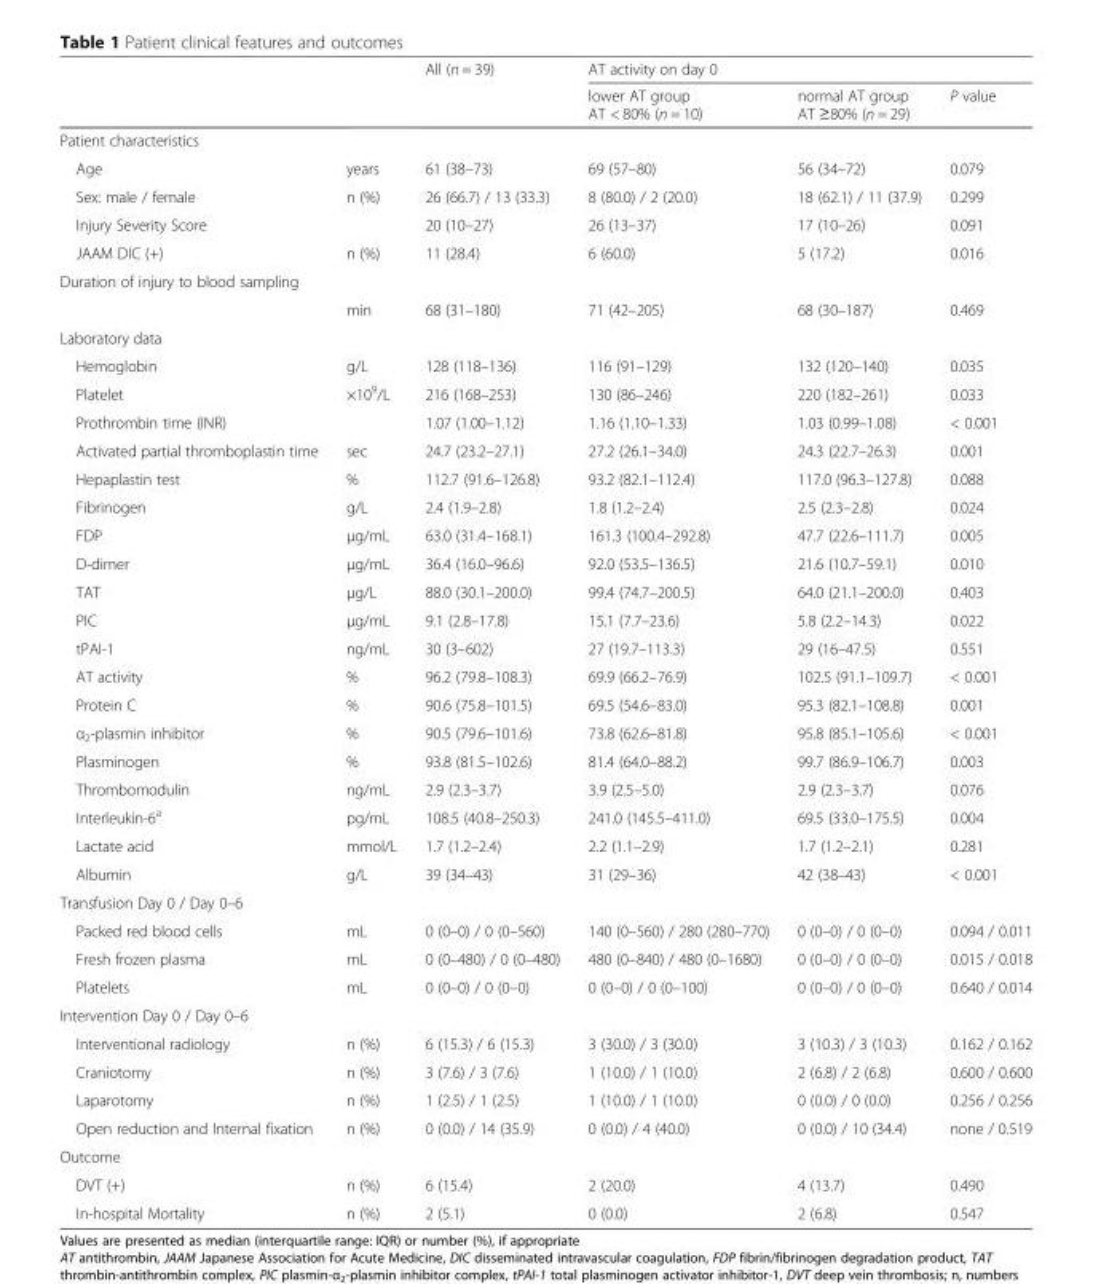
<table><thead><tr><td rowspan="2"></td><td rowspan="2"></td><td rowspan="2">All (n = 39)</td><td colspan="3">AT activity on day 0</td></tr><tr><td>lower AT group AT &lt; 80% (n = 10)</td><td>normal AT group AT ≥80% (n = 29)</td><td>P value</td></tr></thead><tbody><tr><td colspan="6">Patient characteristics</td></tr><tr><td>Age</td><td>years</td><td>61 (38–73)</td><td>69 (57–80)</td><td>56 (34–72)</td><td>0.079</td></tr><tr><td>Sex: male / female</td><td>n (%)</td><td>26 (66.7) / 13 (33.3)</td><td>8 (80.0) / 2 (20.0)</td><td>18 (62.1) / 11 (37.9)</td><td>0.299</td></tr><tr><td colspan="2">Injury Severity Score</td><td>20 (10–27)</td><td>26 (13–37)</td><td>17 (10–26)</td><td>0.091</td></tr><tr><td>JAAM DIC (+)</td><td>n (%)</td><td>11 (28.4)</td><td>6 (60.0)</td><td>5 (17.2)</td><td>0.016</td></tr><tr><td colspan="6">Duration of injury to blood sampling</td></tr><tr><td></td><td>min</td><td>68 (31–180)</td><td>71 (42–205)</td><td>68 (30–187)</td><td>0.469</td></tr><tr><td colspan="6">Laboratory data</td></tr><tr><td>Hemoglobin</td><td>g/L</td><td>128 (118–136)</td><td>116 (91–129)</td><td>132 (120–140)</td><td>0.035</td></tr><tr><td>Platelet</td><td>×10<sup>9</sup>/L</td><td>216 (168–253)</td><td>130 (86–246)</td><td>220 (182–261)</td><td>0.033</td></tr><tr><td>Prothrombin time (INR)</td><td></td><td>1.07 (1.00–1.12)</td><td>1.16 (1.10–1.33)</td><td>1.03 (0.99–1.08)</td><td>&lt; 0.001</td></tr><tr><td>Activated partial thromboplastin time</td><td>sec</td><td>24.7 (23.2–27.1)</td><td>27.2 (26.1–34.0)</td><td>24.3 (22.7–26.3)</td><td>0.001</td></tr><tr><td>Hepaplastin test</td><td>%</td><td>112.7 (91.6–126.8)</td><td>93.2 (82.1–112.4)</td><td>117.0 (96.3–127.8)</td><td>0.088</td></tr><tr><td>Fibrinogen</td><td>g/L</td><td>2.4 (1.9–2.8)</td><td>1.8 (1.2–2.4)</td><td>2.5 (2.3–2.8)</td><td>0.024</td></tr><tr><td>FDP</td><td>μg/mL</td><td>63.0 (31.4–168.1)</td><td>161.3 (100.4–292.8)</td><td>47.7 (22.6–111.7)</td><td>0.005</td></tr><tr><td>D-dimer</td><td>μg/mL</td><td>36.4 (16.0–96.6)</td><td>92.0 (53.5–136.5)</td><td>21.6 (10.7–59.1)</td><td>0.010</td></tr><tr><td>TAT</td><td>μg/L</td><td>88.0 (30.1–200.0)</td><td>99.4 (74.7–200.5)</td><td>64.0 (21.1–200.0)</td><td>0.403</td></tr><tr><td>PIC</td><td>μg/mL</td><td>9.1 (2.8–17.8)</td><td>15.1 (7.7–23.6)</td><td>5.8 (2.2–14.3)</td><td>0.022</td></tr><tr><td>tPAI-1</td><td>ng/mL</td><td>30 (3–602)</td><td>27 (19.7–113.3)</td><td>29 (16–47.5)</td><td>0.551</td></tr><tr><td>AT activity</td><td>%</td><td>96.2 (79.8–108.3)</td><td>69.9 (66.2–76.9)</td><td>102.5 (91.1–109.7)</td><td>&lt; 0.001</td></tr><tr><td>Protein C</td><td>%</td><td>90.6 (75.8–101.5)</td><td>69.5 (54.6–83.0)</td><td>95.3 (82.1–108.8)</td><td>0.001</td></tr><tr><td>α<sub>2</sub>-plasmin inhibitor</td><td>%</td><td>90.5 (79.6–101.6)</td><td>73.8 (62.6–81.8)</td><td>95.8 (85.1–105.6)</td><td>&lt; 0.001</td></tr><tr><td>Plasminogen</td><td>%</td><td>93.8 (81.5–102.6)</td><td>81.4 (64.0–88.2)</td><td>99.7 (86.9–106.7)</td><td>0.003</td></tr><tr><td>Thrombomodulin</td><td>ng/mL</td><td>2.9 (2.3–3.7)</td><td>3.9 (2.5–5.0)</td><td>2.9 (2.3–3.7)</td><td>0.076</td></tr><tr><td>Interleukin-6<sup>a</sup></td><td>pg/mL</td><td>108.5 (40.8–250.3)</td><td>241.0 (145.5–411.0)</td><td>69.5 (33.0–175.5)</td><td>0.004</td></tr><tr><td>Lactate acid</td><td>mmol/L</td><td>1.7 (1.2–2.4)</td><td>2.2 (1.1–2.9)</td><td>1.7 (1.2–2.1)</td><td>0.281</td></tr><tr><td>Albumin</td><td>g/L</td><td>39 (34–43)</td><td>31 (29–36)</td><td>42 (38–43)</td><td>&lt; 0.001</td></tr><tr><td colspan="6">Transfusion Day 0 / Day 0–6</td></tr><tr><td>Packed red blood cells</td><td>mL</td><td>0 (0–0) / 0 (0–560)</td><td>140 (0–560) / 280 (280–770)</td><td>0 (0–0) / 0 (0–0)</td><td>0.094 / 0.011</td></tr><tr><td>Fresh frozen plasma</td><td>mL</td><td>0 (0–480) / 0 (0–480)</td><td>480 (0–840) / 480 (0–1680)</td><td>0 (0–0) / 0 (0–0)</td><td>0.015 / 0.018</td></tr><tr><td>Platelets</td><td>mL</td><td>0 (0–0) / 0 (0–0)</td><td>0 (0–0) / 0 (0–100)</td><td>0 (0–0) / 0 (0–0)</td><td>0.640 / 0.014</td></tr><tr><td colspan="6">Intervention Day 0 / Day 0–6</td></tr><tr><td>Interventional radiology</td><td>n (%)</td><td>6 (15.3) / 6 (15.3)</td><td>3 (30.0) / 3 (30.0)</td><td>3 (10.3) / 3 (10.3)</td><td>0.162 / 0.162</td></tr><tr><td>Craniotomy</td><td>n (%)</td><td>3 (7.6) / 3 (7.6)</td><td>1 (10.0) / 1 (10.0)</td><td>2 (6.8) / 2 (6.8)</td><td>0.600 / 0.600</td></tr><tr><td>Laparotomy</td><td>n (%)</td><td>1 (2.5) / 1 (2.5)</td><td>1 (10.0) / 1 (10.0)</td><td>0 (0.0) / 0 (0.0)</td><td>0.256 / 0.256</td></tr><tr><td>Open reduction and Internal fixation</td><td>n (%)</td><td>0 (0.0) / 14 (35.9)</td><td>0 (0.0) / 4 (40.0)</td><td>0 (0.0) / 10 (34.4)</td><td>none / 0.519</td></tr><tr><td colspan="6">Outcome</td></tr><tr><td>DVT (+)</td><td>n (%)</td><td>6 (15.4)</td><td>2 (20.0)</td><td>4 (13.7)</td><td>0.490</td></tr><tr><td>In-hospital Mortality</td><td>n (%)</td><td>2 (5.1)</td><td>0 (0.0)</td><td>2 (6.8)</td><td>0.547</td></tr></tbody></table>